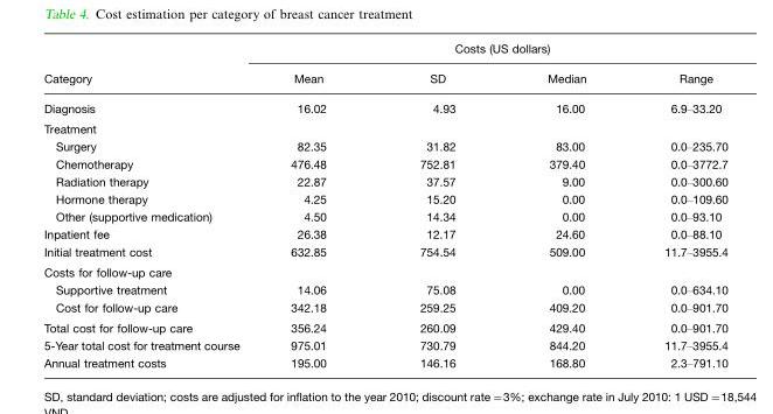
<table><thead><tr><td rowspan="2">Category</td><td colspan="4">Costs (US dollars)</td></tr><tr><td>Mean</td><td>SD</td><td>Median</td><td>Range</td></tr></thead><tbody><tr><td>Diagnosis</td><td>16.02</td><td>4.93</td><td>16.00</td><td>6.9–33.20</td></tr><tr><td colspan="5">Treatment</td></tr><tr><td>Surgery</td><td>82.35</td><td>31.82</td><td>83.00</td><td>0.0–235.70</td></tr><tr><td>Chemotherapy</td><td>476.48</td><td>752.81</td><td>379.40</td><td>0.0–3772.7</td></tr><tr><td>Radiation therapy</td><td>22.87</td><td>37.57</td><td>9.00</td><td>0.0–300.60</td></tr><tr><td>Hormone therapy</td><td>4.25</td><td>15.20</td><td>0.00</td><td>0.0–109.60</td></tr><tr><td>Other (supportive medication)</td><td>4.50</td><td>14.34</td><td>0.00</td><td>0.0–93.10</td></tr><tr><td>Inpatient fee</td><td>26.38</td><td>12.17</td><td>24.60</td><td>0.0–88.10</td></tr><tr><td>Initial treatment cost</td><td>632.85</td><td>754.54</td><td>509.00</td><td>11.7–3955.4</td></tr><tr><td colspan="5">Costs for follow-up care</td></tr><tr><td>Supportive treatment</td><td>14.06</td><td>75.08</td><td>0.00</td><td>0.0–634.10</td></tr><tr><td>Cost for follow-up care</td><td>342.18</td><td>259.25</td><td>409.20</td><td>0.0–901.70</td></tr><tr><td>Total cost for follow-up care</td><td>356.24</td><td>260.09</td><td>429.40</td><td>0.0–901.70</td></tr><tr><td>5-Year total cost for treatment course</td><td>975.01</td><td>730.79</td><td>844.20</td><td>11.7–3955.4</td></tr><tr><td>Annual treatment costs</td><td>195.00</td><td>146.16</td><td>168.80</td><td>2.3–791.10</td></tr></tbody></table>